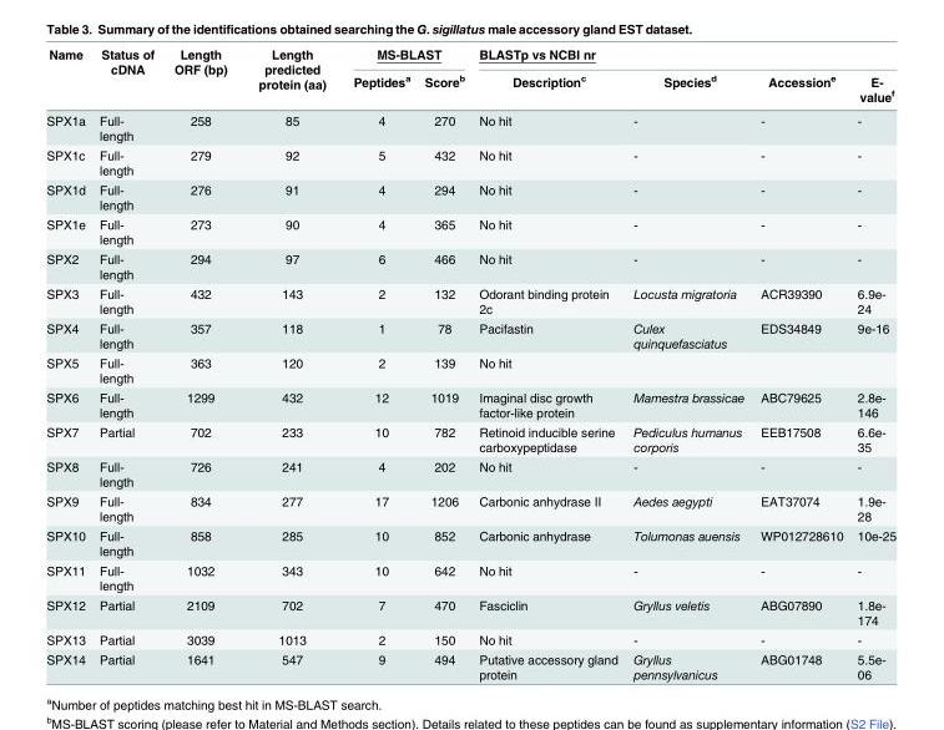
<table><thead><tr><td rowspan="2">Name</td><td rowspan="2">Status of cDNA</td><td rowspan="2">Length ORF (bp)</td><td rowspan="2">Length predicted protein (aa)</td><td colspan="2">MS-BLAST</td><td colspan="4">BLASTp vs NCBI nr</td></tr><tr><td>Peptides<sup>a</sup></td><td>Score<sup>b</sup></td><td>Description<sup>c</sup></td><td>Species<sup>d</sup></td><td>Accession<sup>e</sup></td><td>E- value<sup>f</sup></td></tr></thead><tbody><tr><td>SPX1a</td><td>Full- length</td><td>258</td><td>85</td><td>4</td><td>270</td><td>No hit</td><td>-</td><td>-</td><td>-</td></tr><tr><td>SPX1c</td><td>Full- length</td><td>279</td><td>92</td><td>5</td><td>432</td><td>No hit</td><td>-</td><td>-</td><td>-</td></tr><tr><td>SPX1d</td><td>Full- length</td><td>276</td><td>91</td><td>4</td><td>294</td><td>No hit</td><td>-</td><td>-</td><td>-</td></tr><tr><td>SPX1e</td><td>Full- length</td><td>273</td><td>90</td><td>4</td><td>365</td><td>No hit</td><td>-</td><td>-</td><td>-</td></tr><tr><td>SPX2</td><td>Full- length</td><td>294</td><td>97</td><td>6</td><td>466</td><td>No hit</td><td>-</td><td>-</td><td>-</td></tr><tr><td>SPX3</td><td>Full- length</td><td>432</td><td>143</td><td>2</td><td>132</td><td>Odorant binding protein 2c</td><td>Locusta migratoria</td><td>ACR39390</td><td>6.9e- 24</td></tr><tr><td>SPX4</td><td>Full- length</td><td>357</td><td>118</td><td>1</td><td>78</td><td>Pacifastin</td><td>Culex quinquefasciatus</td><td>EDS34849</td><td>9e-16</td></tr><tr><td>SPX5</td><td>Full- length</td><td>363</td><td>120</td><td>2</td><td>139</td><td>No hit</td><td></td><td></td><td></td></tr><tr><td>SPX6</td><td>Full- length</td><td>1299</td><td>432</td><td>12</td><td>1019</td><td>Imaginal disc growth factor-like protein</td><td>Mamestra brassicae</td><td>ABC79625</td><td>2.8e- 146</td></tr><tr><td>SPX7</td><td>Partial</td><td>702</td><td>233</td><td>10</td><td>782</td><td>Retinoid inducible serine carboxypeptidase</td><td>Pediculus humanus corporis</td><td>EEB17508</td><td>6.6e- 35</td></tr><tr><td>SPX8</td><td>Full- length</td><td>726</td><td>241</td><td>4</td><td>202</td><td>No hit</td><td>-</td><td>-</td><td>-</td></tr><tr><td>SPX9</td><td>Full- length</td><td>834</td><td>277</td><td>17</td><td>1206</td><td>Carbonic anhydrase II</td><td>Aedes aegypti</td><td>EAT37074</td><td>1.9e- 28</td></tr><tr><td>SPX10</td><td>Full- length</td><td>858</td><td>285</td><td>10</td><td>852</td><td>Carbonic anhydrase</td><td>Tolumonas auensis</td><td>WP012728610</td><td>10e-25</td></tr><tr><td>SPX11</td><td>Full- length</td><td>1032</td><td>343</td><td>10</td><td>642</td><td>No hit</td><td>-</td><td>-</td><td>-</td></tr><tr><td>SPX12</td><td>Partial</td><td>2109</td><td>702</td><td>7</td><td>470</td><td>Fasciclin</td><td>Gryllus veletis</td><td>ABG07890</td><td>1.8e- 174</td></tr><tr><td>SPX13</td><td>Partial</td><td>3039</td><td>1013</td><td>2</td><td>150</td><td>No hit</td><td>-</td><td>-</td><td>-</td></tr><tr><td>SPX14</td><td>Partial</td><td>1641</td><td>547</td><td>9</td><td>494</td><td>Putative accessory gland protein</td><td>Gryllus pennsylvanicus</td><td>ABG01748</td><td>5.5e- 06</td></tr></tbody></table>